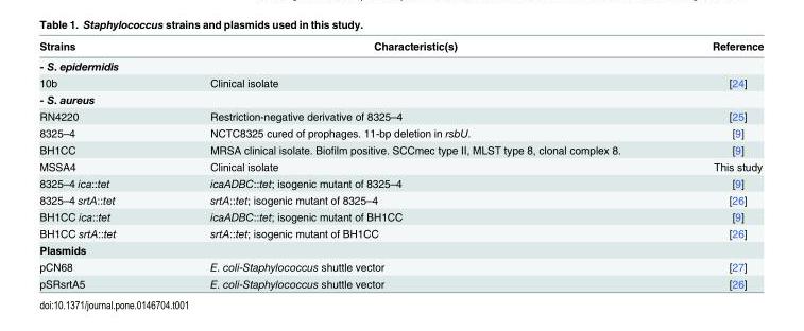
<table><thead><tr><td>Strains</td><td>Characteristic(s)</td><td>Reference</td></tr></thead><tbody><tr><td colspan="3">- S. epidermidis</td></tr><tr><td>10b</td><td>Clinical isolate</td><td>[24]</td></tr><tr><td colspan="3">- S. aureus</td></tr><tr><td>RN4220</td><td>Restriction-negative derivative of 8325–4</td><td>[25]</td></tr><tr><td>8325–4</td><td>NCTC8325 cured of prophages. 11-bp deletion in rsbU.</td><td>[9]</td></tr><tr><td>BH1CC</td><td>MRSA clinical isolate. Biofilm positive. SCCmec type II, MLST type 8, clonal complex 8.</td><td>[9]</td></tr><tr><td>MSSA4</td><td>Clinical isolate</td><td>This study</td></tr><tr><td>8325–4 ica::tet</td><td>icaADBC::tet; isogenic mutant of 8325–4</td><td>[9]</td></tr><tr><td>8325–4 srtA::tet</td><td>srtA::tet; isogenic mutant of 8325–4</td><td>[26]</td></tr><tr><td>BH1CC ica::tet</td><td>icaADBC::tet; isogenic mutant of BH1CC</td><td>[9]</td></tr><tr><td>BH1CC srtA::tet</td><td>srtA::tet; isogenic mutant of BH1CC</td><td>[26]</td></tr><tr><td colspan="3">Plasmids</td></tr><tr><td>pCN68</td><td>E. coli-Staphylococcus shuttle vector</td><td>[27]</td></tr><tr><td>pSRsrtA5</td><td>E. coli-Staphylococcus shuttle vector</td><td>[26]</td></tr></tbody></table>